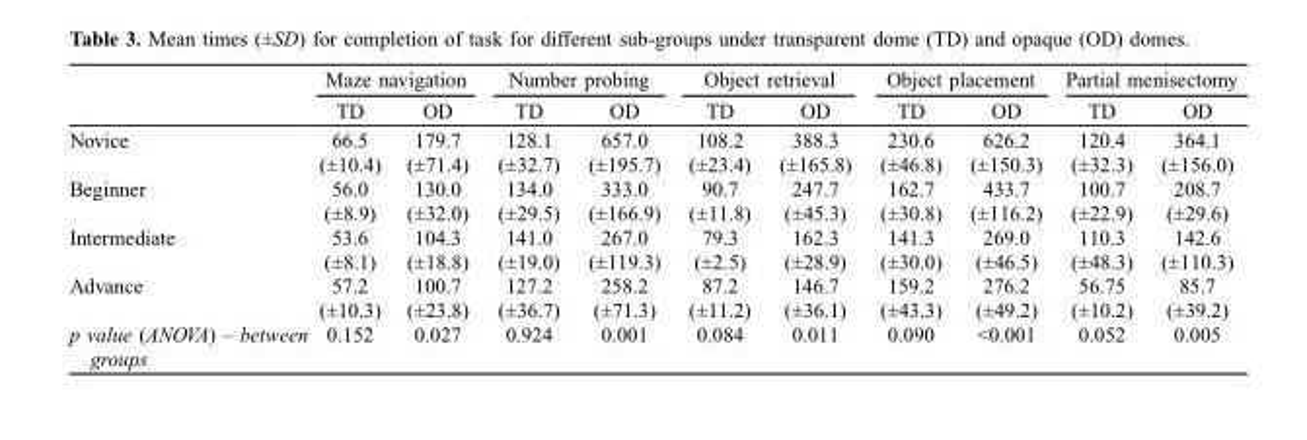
<table><thead><tr><td rowspan="2"></td><td colspan="2">Maze navigation</td><td colspan="2">Number probing</td><td colspan="2">Object retrieval</td><td colspan="2">Object placement</td><td colspan="2">Partial menisectomy</td></tr><tr><td>TD</td><td>OD</td><td>TD</td><td>OD</td><td>TD</td><td>OD</td><td>TD</td><td>OD</td><td>TD</td><td>OD</td></tr></thead><tbody><tr><td>Novice</td><td>66.5 (±10.4)</td><td>179.7 (±71.4)</td><td>128.1 (±32.7)</td><td>657.0 (±195.7)</td><td>108.2 (±23.4)</td><td>388.3 (±165.8)</td><td>230.6 (±46.8)</td><td>626.2 (±150.3)</td><td>120.4 (±32.3)</td><td>364.1 (±156.0)</td></tr><tr><td>Beginner</td><td>56.0 (±8.9)</td><td>130.0 (±32.0)</td><td>134.0 (±29.5)</td><td>333.0 (±166.9)</td><td>90.7 (±11.8)</td><td>247.7 (±45.3)</td><td>162.7 (±30.8)</td><td>433.7 (±116.2)</td><td>100.7 (±22.9)</td><td>208.7 (±29.6)</td></tr><tr><td>Intermediate</td><td>53.6 (±8.1)</td><td>104.3 (±18.8)</td><td>141.0 (±19.0)</td><td>267.0 (±119.3)</td><td>79.3 (±2.5)</td><td>162.3 (±28.9)</td><td>141.3 (±30.0)</td><td>269.0 (±46.5)</td><td>110.3 (±48.3)</td><td>142.6 (±110.3)</td></tr><tr><td>Advance</td><td>57.2 (±10.3)</td><td>100.7 (±23.8)</td><td>127.2 (±36.7)</td><td>258.2 (±71.3)</td><td>87.2 (±11.2)</td><td>146.7 (±36.1)</td><td>159.2 (±43.3)</td><td>276.2 (±49.2)</td><td>56.75 (±10.2)</td><td>85.7 (±39.2)</td></tr><tr><td>p value (ANOVA) – between groups</td><td>0.152</td><td>0.027</td><td>0.924</td><td>0.001</td><td>0.084</td><td>0.011</td><td>0.090</td><td>&lt;0.001</td><td>0.052</td><td>0.005</td></tr></tbody></table>